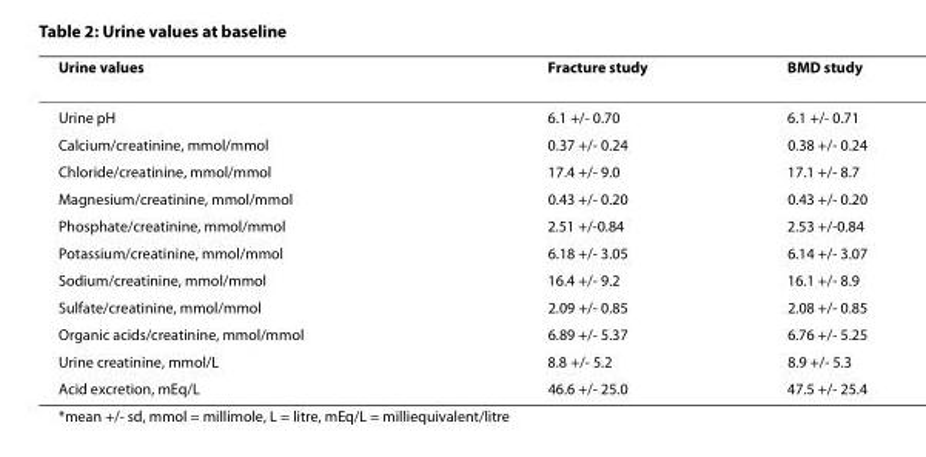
<table><thead><tr><td>Urine values</td><td>Fracture study</td><td>BMD study</td></tr></thead><tbody><tr><td>Urine pH</td><td>6.1 +/- 0.70</td><td>6.1 +/- 0.71</td></tr><tr><td>Calcium/creatinine, mmol/mmol</td><td>0.37 +/- 0.24</td><td>0.38 +/- 0.24</td></tr><tr><td>Chloride/creatinine, mmol/mmol</td><td>17.4 +/- 9.0</td><td>17.1 +/- 8.7</td></tr><tr><td>Magnesium/creatinine, mmol/mmol</td><td>0.43 +/- 0.20</td><td>0.43 +/- 0.20</td></tr><tr><td>Phosphate/creatinine, mmol/mmol</td><td>2.51 +/-0.84</td><td>2.53 +/-0.84</td></tr><tr><td>Potassium/creatinine, mmol/mmol</td><td>6.18 +/- 3.05</td><td>6.14 +/- 3.07</td></tr><tr><td>Sodium/creatinine, mmol/mmol</td><td>16.4 +/- 9.2</td><td>16.1 +/- 8.9</td></tr><tr><td>Sulfate/creatinine, mmol/mmol</td><td>2.09 +/- 0.85</td><td>2.08 +/- 0.85</td></tr><tr><td>Organic acids/creatinine, mmol/mmol</td><td>6.89 +/- 5.37</td><td>6.76 +/- 5.25</td></tr><tr><td>Urine creatinine, mmol/L</td><td>8.8 +/- 5.2</td><td>8.9 +/- 5.3</td></tr><tr><td>Acid excretion, mEq/L</td><td>46.6 +/- 25.0</td><td>47.5 +/- 25.4</td></tr></tbody></table>